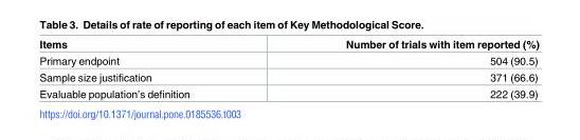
<table><thead><tr><td>Items</td><td>Number of trials with item reported (%)</td></tr></thead><tbody><tr><td>Primary endpoint</td><td>504 (90.5)</td></tr><tr><td>Sample size justification</td><td>371 (66.6)</td></tr><tr><td>Evaluable population’s definition</td><td>222 (39.9)</td></tr></tbody></table>